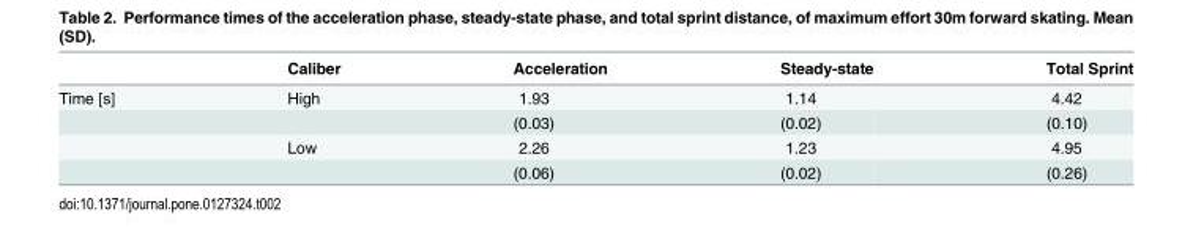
<table><thead><tr><td></td><td>Caliber</td><td>Acceleration</td><td>Steady-state</td><td>Total Sprint</td></tr></thead><tbody><tr><td rowspan="4">Time [s]</td><td>High</td><td>1.93</td><td>1.14</td><td>4.42</td></tr><tr><td></td><td>(0.03)</td><td>(0.02)</td><td>(0.10)</td></tr><tr><td>Low</td><td>2.26</td><td>1.23</td><td>4.95</td></tr><tr><td></td><td>(0.06)</td><td>(0.02)</td><td>(0.26)</td></tr></tbody></table>